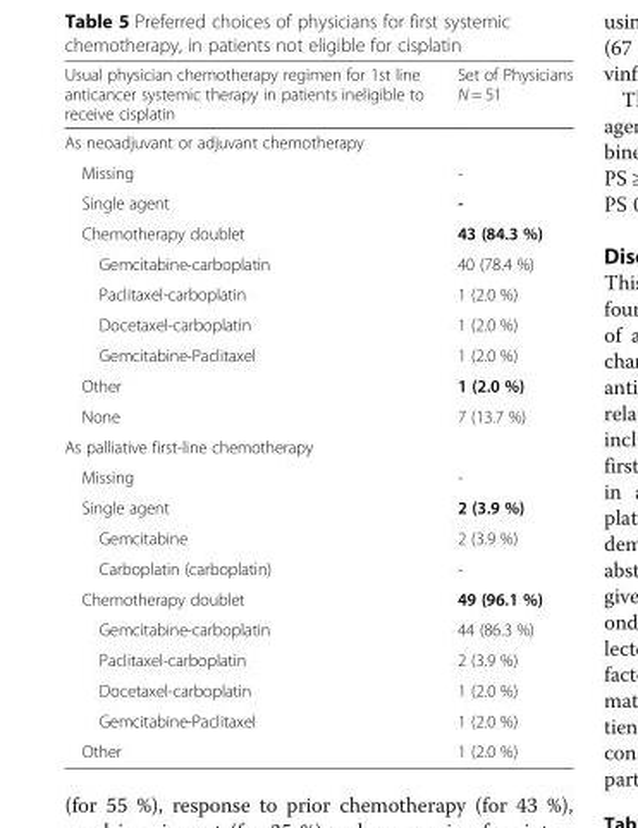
<table><thead><tr><td>Usual physician chemotherapy regimen for 1st line anticancer systemic therapy in patients ineligible to receive cisplatin</td><td>Set of Physicians N = 51</td></tr></thead><tbody><tr><td colspan="2">As neoadjuvant or adjuvant chemotherapy</td></tr><tr><td>Missing</td><td>-</td></tr><tr><td>Single agent</td><td>-</td></tr><tr><td>Chemotherapy doublet</td><td>43 (84.3 %)</td></tr><tr><td>Gemcitabine-carboplatin</td><td>40 (78.4 %)</td></tr><tr><td>Paclitaxel-carboplatin</td><td>1 (2.0 %)</td></tr><tr><td>Docetaxel-carboplatin</td><td>1 (2.0 %)</td></tr><tr><td>Gemcitabine-Paclitaxel</td><td>1 (2.0 %)</td></tr><tr><td>Other</td><td>1 (2.0 %)</td></tr><tr><td>None</td><td>7 (13.7 %)</td></tr><tr><td colspan="2">As palliative first-line chemotherapy</td></tr><tr><td>Missing</td><td>-</td></tr><tr><td>Single agent</td><td>2 (3.9 %)</td></tr><tr><td>Gemcitabine</td><td>2 (3.9 %)</td></tr><tr><td>Carboplatin (carboplatin)</td><td>-</td></tr><tr><td>Chemotherapy doublet</td><td>49 (96.1 %)</td></tr><tr><td>Gemcitabine-carboplatin</td><td>44 (86.3 %)</td></tr><tr><td>Paclitaxel-carboplatin</td><td>2 (3.9 %)</td></tr><tr><td>Docetaxel-carboplatin</td><td>1 (2.0 %)</td></tr><tr><td>Gemcitabine-Paclitaxel</td><td>1 (2.0 %)</td></tr><tr><td>Other</td><td>1 (2.0 %)</td></tr></tbody></table>